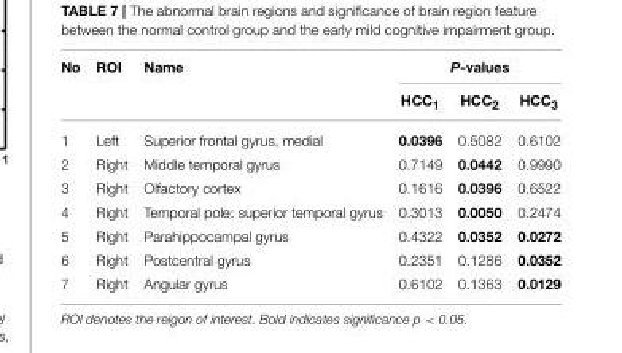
<table><thead><tr><td rowspan="2">No</td><td rowspan="2">ROI</td><td rowspan="2">Name</td><td colspan="3">P-values</td></tr><tr><td>HCC<sub>1</sub></td><td>HCC<sub>2</sub></td><td>HCC<sub>3</sub></td></tr></thead><tbody><tr><td>1</td><td>Left</td><td>Superior frontal gyrus, medial</td><td>0.0396</td><td>0.5082</td><td>0.6102</td></tr><tr><td>2</td><td>Right</td><td>Middle temporal gyrus</td><td>0.7149</td><td>0.0442</td><td>0.9990</td></tr><tr><td>3</td><td>Right</td><td>Olfactory cortex</td><td>0.1616</td><td>0.0396</td><td>0.6522</td></tr><tr><td>4</td><td>Right</td><td>Temporal pole: superior temporal gyrus</td><td>0.3013</td><td>0.0050</td><td>0.2474</td></tr><tr><td>5</td><td>Right</td><td>Parahippocampal gyrus</td><td>0.4322</td><td>0.0352</td><td>0.0272</td></tr><tr><td>6</td><td>Right</td><td>Postcentral gyrus</td><td>0.2351</td><td>0.1286</td><td>0.0352</td></tr><tr><td>7</td><td>Right</td><td>Angular gyrus</td><td>0.6102</td><td>0.1363</td><td>0.0129</td></tr></tbody></table>